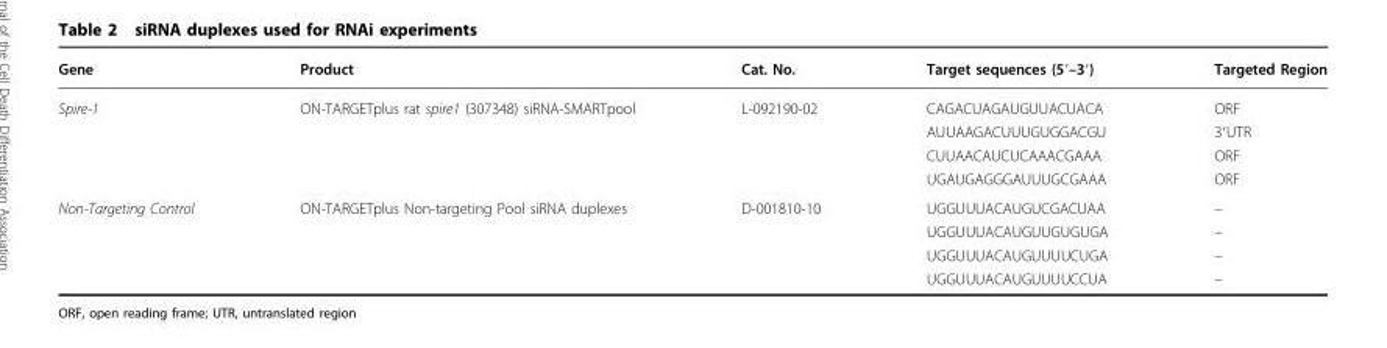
<table><thead><tr><td>Gene</td><td>Product</td><td>Cat. No.</td><td>Target sequences (5′–3′)</td><td>Targeted Region</td></tr></thead><tbody><tr><td>Spire-1</td><td>ON-TARGETplus rat spire1 (307348) siRNA-SMARTpool</td><td>L-092190-02</td><td>CAGACUAGAUGUUACUACA AUUAAGACUUUGUGGACGU CUUAACAUCUCAAACGAAA UGAUGAGGGAUUUGCGAAA</td><td>ORF 3′UTR ORF ORF</td></tr><tr><td>Non-Targeting Control</td><td>ON-TARGETplus Non-targeting Pool siRNA duplexes</td><td>D-001810-10</td><td>UGGUUUACAUGUCGACUAA UGGUUUACAUGUUGUGUGA UGGUUUACAUGUUUUCUGA UGGUUUACAUGUUUUCCUA</td><td>– – – –</td></tr></tbody></table>